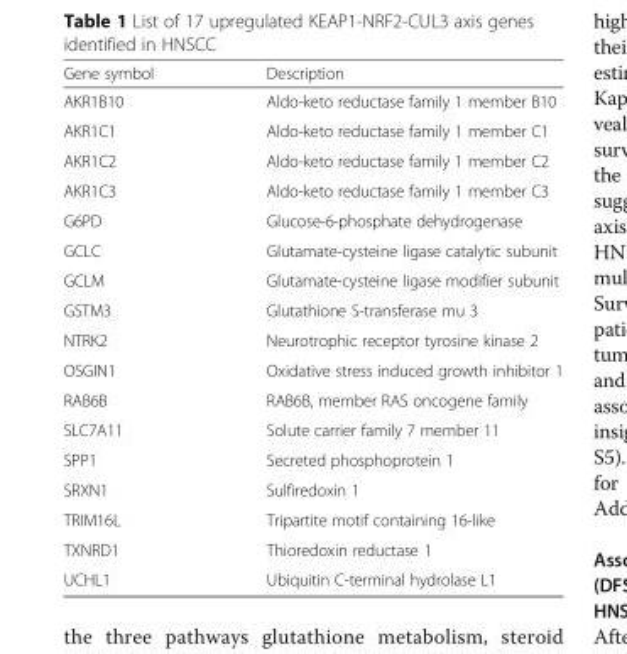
<table><thead><tr><td>Gene symbol</td><td>Description</td></tr></thead><tbody><tr><td>AKR1B10</td><td>Aldo-keto reductase family 1 member B10</td></tr><tr><td>AKR1C1</td><td>Aldo-keto reductase family 1 member C1</td></tr><tr><td>AKR1C2</td><td>Aldo-keto reductase family 1 member C2</td></tr><tr><td>AKR1C3</td><td>Aldo-keto reductase family 1 member C3</td></tr><tr><td>G6PD</td><td>Glucose-6-phosphate dehydrogenase</td></tr><tr><td>GCLC</td><td>Glutamate-cysteine ligase catalytic subunit</td></tr><tr><td>GCLM</td><td>Glutamate-cysteine ligase modifier subunit</td></tr><tr><td>GSTM3</td><td>Glutathione S-transferase mu 3</td></tr><tr><td>NTRK2</td><td>Neurotrophic receptor tyrosine kinase 2</td></tr><tr><td>OSGIN1</td><td>Oxidative stress induced growth inhibitor 1</td></tr><tr><td>RAB6B</td><td>RAB6B, member RAS oncogene family</td></tr><tr><td>SLC7A11</td><td>Solute carrier family 7 member 11</td></tr><tr><td>SPP1</td><td>Secreted phosphoprotein 1</td></tr><tr><td>SRXN1</td><td>Sulfiredoxin 1</td></tr><tr><td>TRIM16L</td><td>Tripartite motif containing 16-like</td></tr><tr><td>TXNRD1</td><td>Thioredoxin reductase 1</td></tr><tr><td>UCHL1</td><td>Ubiquitin C-terminal hydrolase L1</td></tr></tbody></table>